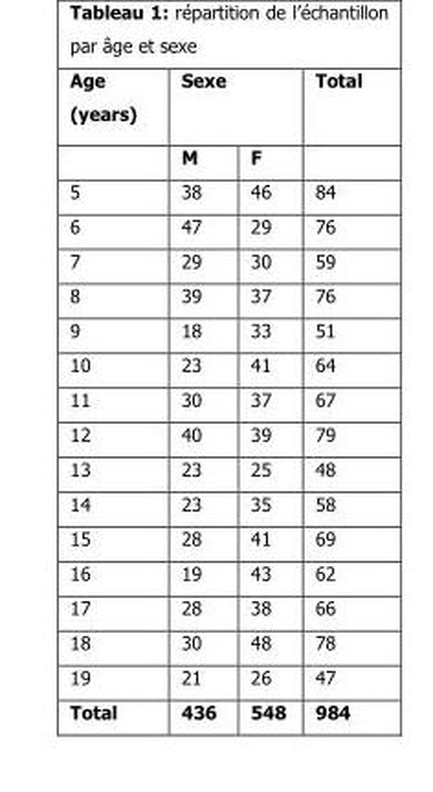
<table><thead><tr><td rowspan="2">Age (years)</td><td colspan="2">Sexe</td><td rowspan="2">Total</td></tr><tr><td>M</td><td>F</td></tr></thead><tbody><tr><td>5</td><td>38</td><td>46</td><td>84</td></tr><tr><td>6</td><td>47</td><td>29</td><td>76</td></tr><tr><td>7</td><td>29</td><td>30</td><td>59</td></tr><tr><td>8</td><td>39</td><td>37</td><td>76</td></tr><tr><td>9</td><td>18</td><td>33</td><td>51</td></tr><tr><td>10</td><td>23</td><td>41</td><td>64</td></tr><tr><td>11</td><td>30</td><td>37</td><td>67</td></tr><tr><td>12</td><td>40</td><td>39</td><td>79</td></tr><tr><td>13</td><td>23</td><td>25</td><td>48</td></tr><tr><td>14</td><td>23</td><td>35</td><td>58</td></tr><tr><td>15</td><td>28</td><td>41</td><td>69</td></tr><tr><td>16</td><td>19</td><td>43</td><td>62</td></tr><tr><td>17</td><td>28</td><td>38</td><td>66</td></tr><tr><td>18</td><td>30</td><td>48</td><td>78</td></tr><tr><td>19</td><td>21</td><td>26</td><td>47</td></tr><tr><td>Total</td><td>436</td><td>548</td><td>984</td></tr></tbody></table>